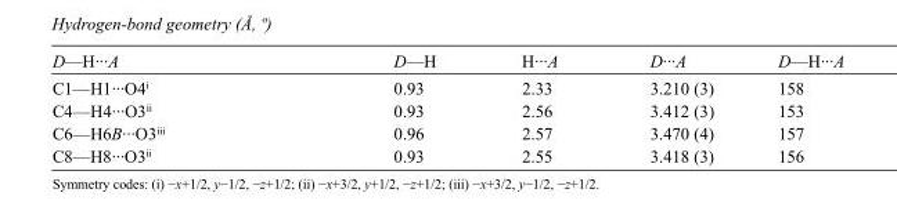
<table><tbody><tr><td>D—H···A</td><td>D—H</td><td>H···A</td><td>D···A</td><td>D—H···A</td></tr><tr><td>C1—H1···O4<sup>i</sup></td><td>0.93</td><td>2.33</td><td>3.210 (3)</td><td>158</td></tr><tr><td>C4—H4···O3<sup>ii</sup></td><td>0.93</td><td>2.56</td><td>3.412 (3)</td><td>153</td></tr><tr><td>C6—H6B···O3<sup>iii</sup></td><td>0.96</td><td>2.57</td><td>3.470 (4)</td><td>157</td></tr><tr><td>C8—H8···O3<sup>ii</sup></td><td>0.93</td><td>2.55</td><td>3.418 (3)</td><td>156</td></tr></tbody></table>